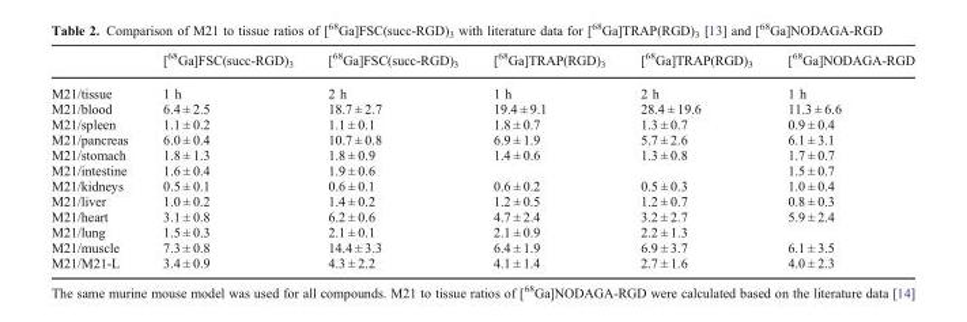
<table><thead><tr><td></td><td>[<sup>68</sup>Ga]FSC(succ-RGD)<sub>3</sub></td><td>[<sup>68</sup>Ga]FSC(succ-RGD)<sub>3</sub></td><td>[<sup>68</sup>Ga]TRAP(RGD)<sub>3</sub></td><td>[<sup>68</sup>Ga]TRAP(RGD)<sub>3</sub></td><td>[<sup>68</sup>Ga]NODAGA-RGD</td></tr></thead><tbody><tr><td>M21/tissue</td><td>1 h</td><td>2 h</td><td>1 h</td><td>2 h</td><td>1 h</td></tr><tr><td>M21/blood</td><td>6.4 ± 2.5</td><td>18.7 ± 2.7</td><td>19.4 ± 9.1</td><td>28.4 ± 19.6</td><td>11.3 ± 6.6</td></tr><tr><td>M21/spleen</td><td>1.1 ± 0.2</td><td>1.1 ± 0.1</td><td>1.8 ± 0.7</td><td>1.3 ± 0.7</td><td>0.9 ± 0.4</td></tr><tr><td>M21/pancreas</td><td>6.0 ± 0.4</td><td>10.7 ± 0.8</td><td>6.9 ± 1.9</td><td>5.7 ± 2.6</td><td>6.1 ± 3.1</td></tr><tr><td>M21/stomach</td><td>1.8 ± 1.3</td><td>1.8 ± 0.9</td><td>1.4 ± 0.6</td><td>1.3 ± 0.8</td><td>1.7 ± 0.7</td></tr><tr><td>M21/intestine</td><td>1.6 ± 0.4</td><td>1.9 ± 0.6</td><td></td><td></td><td>1.5 ± 0.7</td></tr><tr><td>M21/kidneys</td><td>0.5 ± 0.1</td><td>0.6 ± 0.1</td><td>0.6 ± 0.2</td><td>0.5 ± 0.3</td><td>1.0 ± 0.4</td></tr><tr><td>M21/liver</td><td>1.0 ± 0.2</td><td>1.4 ± 0.2</td><td>1.2 ± 0.5</td><td>1.2 ± 0.7</td><td>0.8 ± 0.3</td></tr><tr><td>M21/heart</td><td>3.1 ± 0.8</td><td>6.2 ± 0.6</td><td>4.7 ± 2.4</td><td>3.2 ± 2.7</td><td>5.9 ± 2.4</td></tr><tr><td>M21/lung</td><td>1.5 ± 0.3</td><td>2.1 ± 0.1</td><td>2.1 ± 0.9</td><td>2.2 ± 1.3</td><td></td></tr><tr><td>M21/muscle</td><td>7.3 ± 0.8</td><td>14.4 ± 3.3</td><td>6.4 ± 1.9</td><td>6.9 ± 3.7</td><td>6.1 ± 3.5</td></tr><tr><td>M21/M21-L</td><td>3.4 ± 0.9</td><td>4.3 ± 2.2</td><td>4.1 ± 1.4</td><td>2.7 ± 1.6</td><td>4.0 ± 2.3</td></tr></tbody></table>